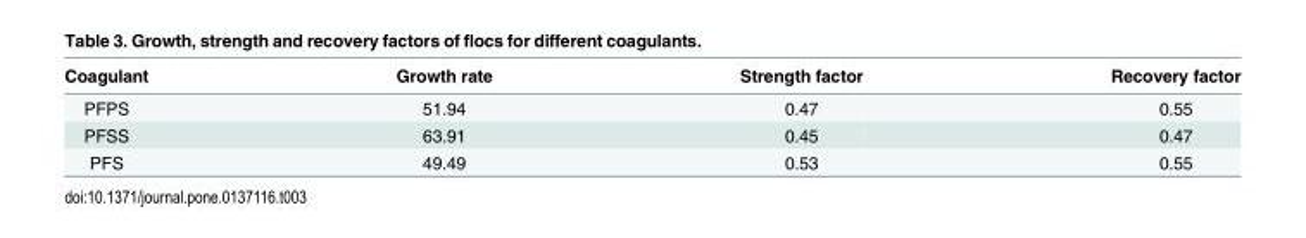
<table><thead><tr><td>Coagulant</td><td>Growth rate</td><td>Strength factor</td><td>Recovery factor</td></tr></thead><tbody><tr><td>PFPS</td><td>51.94</td><td>0.47</td><td>0.55</td></tr><tr><td>PFSS</td><td>63.91</td><td>0.45</td><td>0.47</td></tr><tr><td>PFS</td><td>49.49</td><td>0.53</td><td>0.55</td></tr></tbody></table>